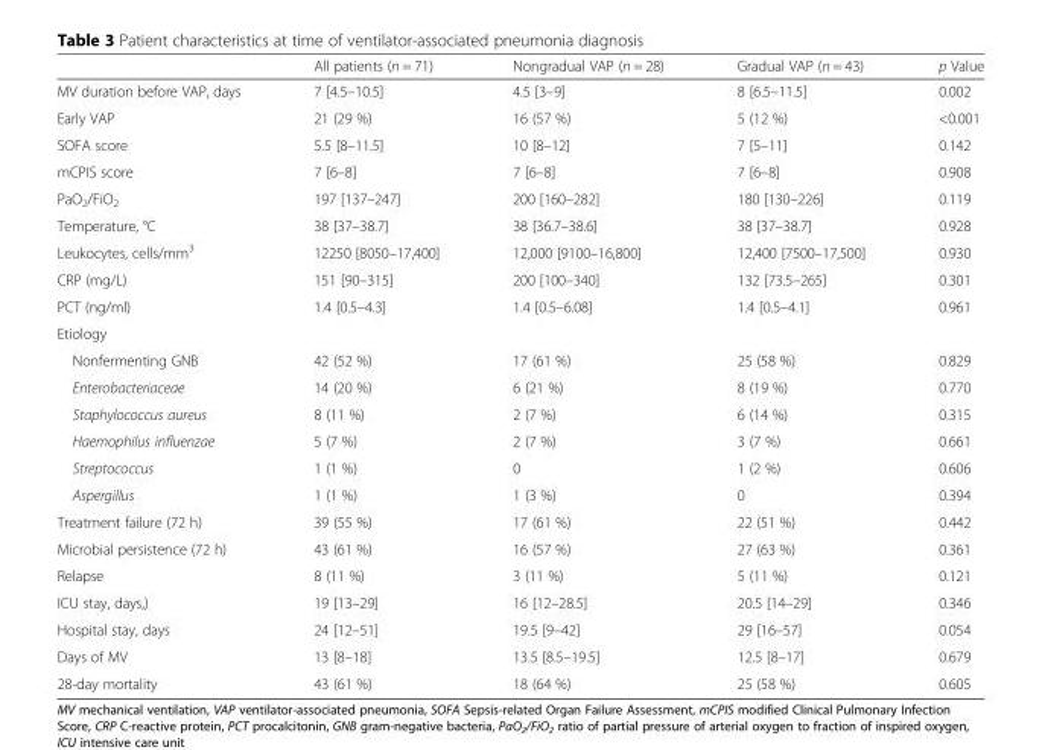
<table><thead><tr><td></td><td>All patients (n = 71)</td><td>Nongradual VAP (n = 28)</td><td>Gradual VAP (n = 43)</td><td>p Value</td></tr></thead><tbody><tr><td>MV duration before VAP, days</td><td>7 [4.5–10.5]</td><td>4.5 [3–9]</td><td>8 [6.5–11.5]</td><td>0.002</td></tr><tr><td>Early VAP</td><td>21 (29 %)</td><td>16 (57 %)</td><td>5 (12 %)</td><td>&lt;0.001</td></tr><tr><td>SOFA score</td><td>5.5 [8–11.5]</td><td>10 [8–12]</td><td>7 [5–11]</td><td>0.142</td></tr><tr><td>mCPIS score</td><td>7 [6–8]</td><td>7 [6–8]</td><td>7 [6–8]</td><td>0.908</td></tr><tr><td>PaO<sub>2</sub>/FiO<sub>2</sub></td><td>197 [137–247]</td><td>200 [160–282]</td><td>180 [130–226]</td><td>0.119</td></tr><tr><td>Temperature, °C</td><td>38 [37–38.7]</td><td>38 [36.7–38.6]</td><td>38 [37–38.7]</td><td>0.928</td></tr><tr><td>Leukocytes, cells/mm<sup>3</sup></td><td>12250 [8050–17,400]</td><td>12,000 [9100–16,800]</td><td>12,400 [7500–17,500]</td><td>0.930</td></tr><tr><td>CRP (mg/L)</td><td>151 [90–315]</td><td>200 [100–340]</td><td>132 [73.5–265]</td><td>0.301</td></tr><tr><td>PCT (ng/ml)</td><td>1.4 [0.5–4.3]</td><td>1.4 [0.5–6.08]</td><td>1.4 [0.5–4.1]</td><td>0.961</td></tr><tr><td colspan="5">Etiology</td></tr><tr><td>Nonfermenting GNB</td><td>42 (52 %)</td><td>17 (61 %)</td><td>25 (58 %)</td><td>0.829</td></tr><tr><td>Enterobacteriaceae</td><td>14 (20 %)</td><td>6 (21 %)</td><td>8 (19 %)</td><td>0.770</td></tr><tr><td>Staphylococcus aureus</td><td>8 (11 %)</td><td>2 (7 %)</td><td>6 (14 %)</td><td>0.315</td></tr><tr><td>Haemophilus influenzae</td><td>5 (7 %)</td><td>2 (7 %)</td><td>3 (7 %)</td><td>0.661</td></tr><tr><td>Streptococcus</td><td>1 (1 %)</td><td>0</td><td>1 (2 %)</td><td>0.606</td></tr><tr><td>Aspergillus</td><td>1 (1 %)</td><td>1 (3 %)</td><td>0</td><td>0.394</td></tr><tr><td>Treatment failure (72 h)</td><td>39 (55 %)</td><td>17 (61 %)</td><td>22 (51 %)</td><td>0.442</td></tr><tr><td>Microbial persistence (72 h)</td><td>43 (61 %)</td><td>16 (57 %)</td><td>27 (63 %)</td><td>0.361</td></tr><tr><td>Relapse</td><td>8 (11 %)</td><td>3 (11 %)</td><td>5 (11 %)</td><td>0.121</td></tr><tr><td>ICU stay, days,)</td><td>19 [13–29]</td><td>16 [12–28.5]</td><td>20.5 [14–29]</td><td>0.346</td></tr><tr><td>Hospital stay, days</td><td>24 [12–51]</td><td>19.5 [9–42]</td><td>29 [16–57]</td><td>0.054</td></tr><tr><td>Days of MV</td><td>13 [8–18]</td><td>13.5 [8.5–19.5]</td><td>12.5 [8–17]</td><td>0.679</td></tr><tr><td>28-day mortality</td><td>43 (61 %)</td><td>18 (64 %)</td><td>25 (58 %)</td><td>0.605</td></tr></tbody></table>